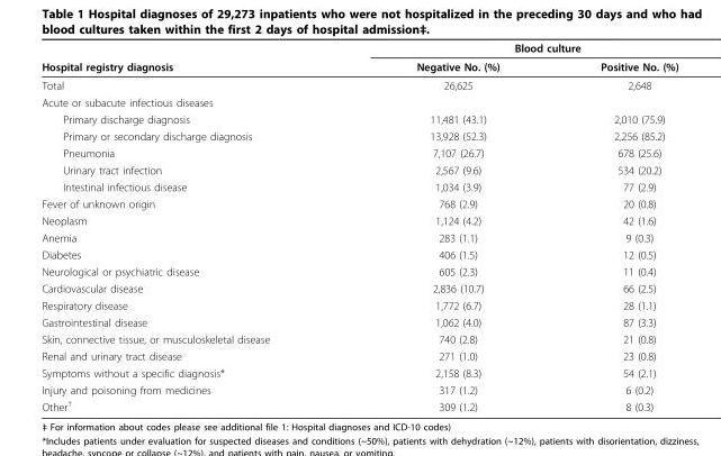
<table><thead><tr><td rowspan="2">Hospital registry diagnosis</td><td colspan="2">Blood culture</td></tr><tr><td>Negative No. (%)</td><td>Positive No. (%)</td></tr></thead><tbody><tr><td>Total</td><td>26,625</td><td>2,648</td></tr><tr><td colspan="3">Acute or subacute infectious diseases</td></tr><tr><td>Primary discharge diagnosis</td><td>11,481 (43.1)</td><td>2,010 (75.9)</td></tr><tr><td>Primary or secondary discharge diagnosis</td><td>13,928 (52.3)</td><td>2,256 (85.2)</td></tr><tr><td>Pneumonia</td><td>7,107 (26.7)</td><td>678 (25.6)</td></tr><tr><td>Urinary tract infection</td><td>2,567 (9.6)</td><td>534 (20.2)</td></tr><tr><td>Intestinal infectious disease</td><td>1,034 (3.9)</td><td>77 (2.9)</td></tr><tr><td>Fever of unknown origin</td><td>768 (2.9)</td><td>20 (0.8)</td></tr><tr><td>Neoplasm</td><td>1,124 (4.2)</td><td>42 (1.6)</td></tr><tr><td>Anemia</td><td>283 (1.1)</td><td>9 (0.3)</td></tr><tr><td>Diabetes</td><td>406 (1.5)</td><td>12 (0.5)</td></tr><tr><td>Neurological or psychiatric disease</td><td>605 (2.3)</td><td>11 (0.4)</td></tr><tr><td>Cardiovascular disease</td><td>2,836 (10.7)</td><td>66 (2.5)</td></tr><tr><td>Respiratory disease</td><td>1,772 (6.7)</td><td>28 (1.1)</td></tr><tr><td>Gastrointestinal disease</td><td>1,062 (4.0)</td><td>87 (3.3)</td></tr><tr><td>Skin, connective tissue, or musculoskeletal disease</td><td>740 (2.8)</td><td>21 (0.8)</td></tr><tr><td>Renal and urinary tract disease</td><td>271 (1.0)</td><td>23 (0.8)</td></tr><tr><td>Symptoms without a specific diagnosis*</td><td>2,158 (8.3)</td><td>54 (2.1)</td></tr><tr><td>Injury and poisoning from medicines</td><td>317 (1.2)</td><td>6 (0.2)</td></tr><tr><td>Other<sup>†</sup></td><td>309 (1.2)</td><td>8 (0.3)</td></tr></tbody></table>